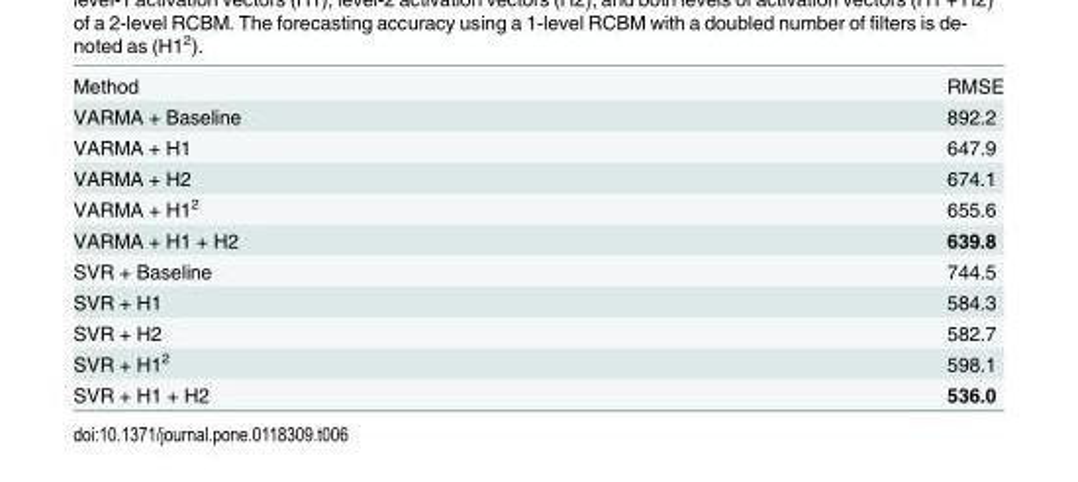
<table><tbody><tr><td>Method</td><td>RMSE</td></tr><tr><td>VARMA + Baseline</td><td>892.2</td></tr><tr><td>VARMA + H1</td><td>647.9</td></tr><tr><td>VARMA + H2</td><td>674.1</td></tr><tr><td>VARMA + H1<sup>2</sup></td><td>655.6</td></tr><tr><td>VARMA + H1 + H2</td><td>639.8</td></tr><tr><td>SVR + Baseline</td><td>744.5</td></tr><tr><td>SVR + H1</td><td>584.3</td></tr><tr><td>SVR + H2</td><td>582.7</td></tr><tr><td>SVR + H1<sup>2</sup></td><td>598.1</td></tr><tr><td>SVR + H1 + H2</td><td>536.0</td></tr></tbody></table>